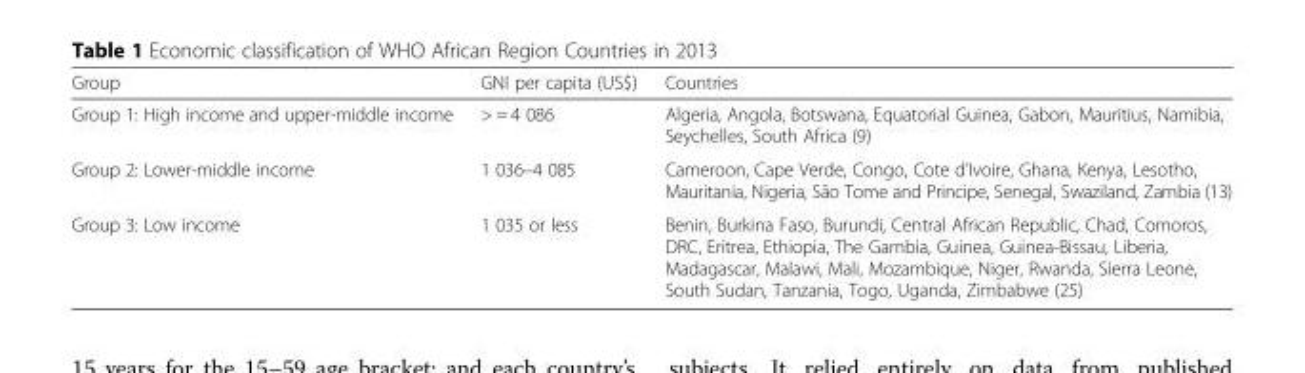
<table><thead><tr><td>Group</td><td>GNI per capita (US$)</td><td>Countries</td></tr></thead><tbody><tr><td>Group 1: High income and upper-middle income</td><td>&gt; = 4 086</td><td>Algeria, Angola, Botswana, Equatorial Guinea, Gabon, Mauritius, Namibia, Seychelles, South Africa (9)</td></tr><tr><td>Group 2: Lower-middle income</td><td>1 036–4 085</td><td>Cameroon, Cape Verde, Congo, Cote d’Ivoire, Ghana, Kenya, Lesotho, Mauritania, Nigeria, São Tome and Principe, Senegal, Swaziland, Zambia (13)</td></tr><tr><td>Group 3: Low income</td><td>1 035 or less</td><td>Benin, Burkina Faso, Burundi, Central African Republic, Chad, Comoros, DRC, Eritrea, Ethiopia, The Gambia, Guinea, Guinea-Bissau, Liberia, Madagascar, Malawi, Mali, Mozambique, Niger, Rwanda, Sierra Leone, South Sudan, Tanzania, Togo, Uganda, Zimbabwe (25)</td></tr></tbody></table>